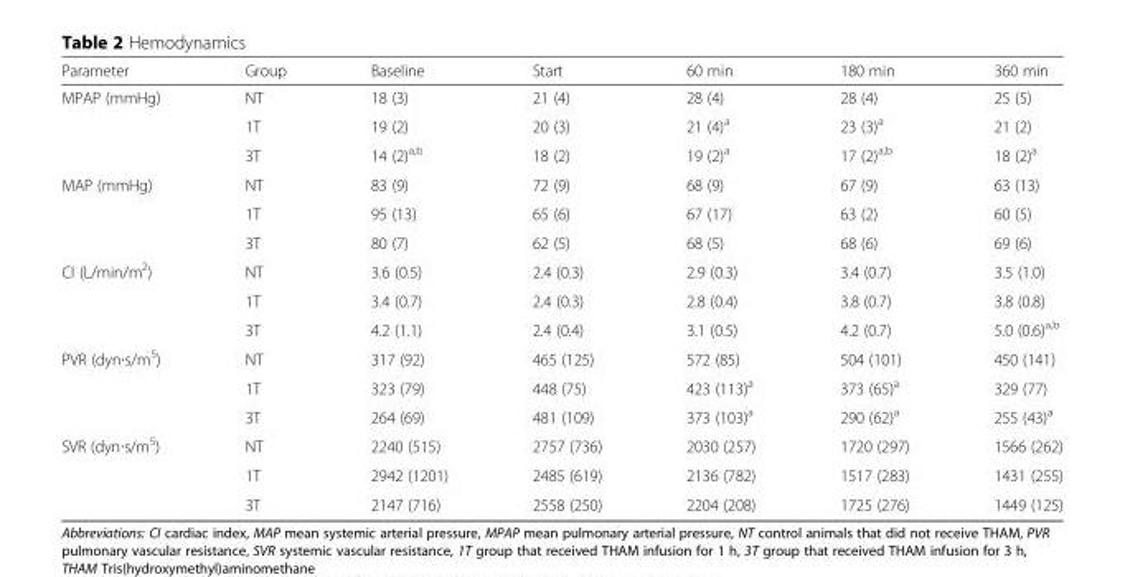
<table><thead><tr><td>Parameter</td><td>Group</td><td>Baseline</td><td>Start</td><td>60 min</td><td>180 min</td><td>360 min</td></tr></thead><tbody><tr><td rowspan="3">MPAP (mmHg)</td><td>NT</td><td>18 (3)</td><td>21 (4)</td><td>28 (4)</td><td>28 (4)</td><td>25 (5)</td></tr><tr><td>1T</td><td>19 (2)</td><td>20 (3)</td><td>21 (4)<sup>a</sup></td><td>23 (3)<sup>a</sup></td><td>21 (2)</td></tr><tr><td>3T</td><td>14 (2)<sup>a,b</sup></td><td>18 (2)</td><td>19 (2)<sup>a</sup></td><td>17 (2)<sup>a,b</sup></td><td>18 (2)<sup>a</sup></td></tr><tr><td rowspan="3">MAP (mmHg)</td><td>NT</td><td>83 (9)</td><td>72 (9)</td><td>68 (9)</td><td>67 (9)</td><td>63 (13)</td></tr><tr><td>1T</td><td>95 (13)</td><td>65 (6)</td><td>67 (17)</td><td>63 (2)</td><td>60 (5)</td></tr><tr><td>3T</td><td>80 (7)</td><td>62 (5)</td><td>68 (5)</td><td>68 (6)</td><td>69 (6)</td></tr><tr><td rowspan="3">CI (L/min/m<sup>2</sup>)</td><td>NT</td><td>3.6 (0.5)</td><td>2.4 (0.3)</td><td>2.9 (0.3)</td><td>3.4 (0.7)</td><td>3.5 (1.0)</td></tr><tr><td>1T</td><td>3.4 (0.7)</td><td>2.4 (0.3)</td><td>2.8 (0.4)</td><td>3.8 (0.7)</td><td>3.8 (0.8)</td></tr><tr><td>3T</td><td>4.2 (1.1)</td><td>2.4 (0.4)</td><td>3.1 (0.5)</td><td>4.2 (0.7)</td><td>5.0 (0.6)<sup>a,b</sup></td></tr><tr><td rowspan="3">PVR (dyn∙s/m<sup>5</sup>)</td><td>NT</td><td>317 (92)</td><td>465 (125)</td><td>572 (85)</td><td>504 (101)</td><td>450 (141)</td></tr><tr><td>1T</td><td>323 (79)</td><td>448 (75)</td><td>423 (113)<sup>a</sup></td><td>373 (65)<sup>a</sup></td><td>329 (77)</td></tr><tr><td>3T</td><td>264 (69)</td><td>481 (109)</td><td>373 (103)<sup>a</sup></td><td>290 (62)<sup>a</sup></td><td>255 (43)<sup>a</sup></td></tr><tr><td rowspan="3">SVR (dyn∙s/m<sup>5</sup>)</td><td>NT</td><td>2240 (515)</td><td>2757 (736)</td><td>2030 (257)</td><td>1720 (297)</td><td>1566 (262)</td></tr><tr><td>1T</td><td>2942 (1201)</td><td>2485 (619)</td><td>2136 (782)</td><td>1517 (283)</td><td>1431 (255)</td></tr><tr><td>3T</td><td>2147 (716)</td><td>2558 (250)</td><td>2204 (208)</td><td>1725 (276)</td><td>1449 (125)</td></tr></tbody></table>